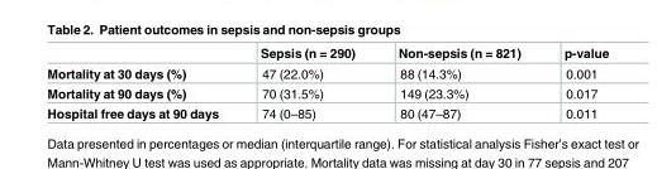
<table><thead><tr><td></td><td>Sepsis (n = 290)</td><td>Non-sepsis (n = 821)</td><td>p-value</td></tr></thead><tbody><tr><td>Mortality at 30 days (%)</td><td>47 (22.0%)</td><td>88 (14.3%)</td><td>0.001</td></tr><tr><td>Mortality at 90 days (%)</td><td>70 (31.5%)</td><td>149 (23.3%)</td><td>0.017</td></tr><tr><td>Hospital free days at 90 days</td><td>74 (0–85)</td><td>80 (47–87)</td><td>0.011</td></tr></tbody></table>